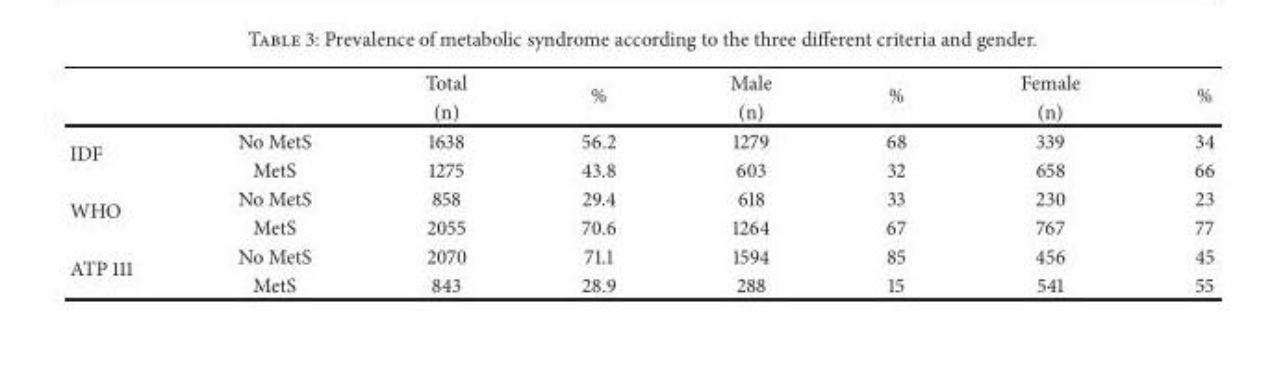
<table><thead><tr><td rowspan="2"></td><td rowspan="2"></td><td rowspan="2">Total (n)</td><td rowspan="2">%</td><td rowspan="2">Male (n)</td><td rowspan="2">%</td><td rowspan="2">Female (n)</td><td rowspan="2">%</td></tr><tr></tr></thead><tbody><tr><td rowspan="2">IDF</td><td>No MetS</td><td>1638</td><td>56.2</td><td>1279</td><td>68</td><td>339</td><td>34</td></tr><tr><td>MetS</td><td>1275</td><td>43.8</td><td>603</td><td>32</td><td>658</td><td>66</td></tr><tr><td rowspan="2">WHO</td><td>No MetS</td><td>858</td><td>29.4</td><td>618</td><td>33</td><td>230</td><td>23</td></tr><tr><td>MetS</td><td>2055</td><td>70.6</td><td>1264</td><td>67</td><td>767</td><td>77</td></tr><tr><td rowspan="2">ATP 111</td><td>No MetS</td><td>2070</td><td>71.1</td><td>1594</td><td>85</td><td>456</td><td>45</td></tr><tr><td>MetS</td><td>843</td><td>28.9</td><td>288</td><td>15</td><td>541</td><td>55</td></tr></tbody></table>